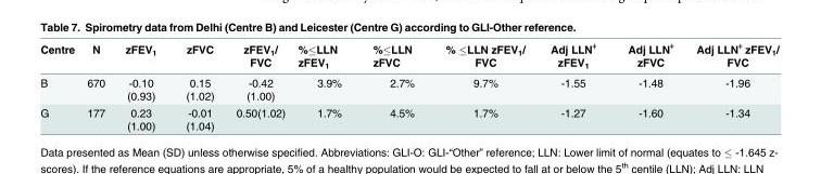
<table><thead><tr><td>Centre</td><td>N</td><td>zFEV<sub>1</sub></td><td>zFVC</td><td>zFEV<sub>1</sub>/ FVC</td><td>%≤LLN zFEV<sub>1</sub></td><td>%≤LLN zFVC</td><td>% ≤LLN zFEV<sub>1</sub>/ FVC</td><td>Adj LLN<sup>ǂ</sup> zFEV<sub>1</sub></td><td>Adj LLN<sup>ǂ</sup> zFVC</td><td>Adj LLN<sup>ǂ</sup> zFEV<sub>1</sub>/ FVC</td></tr></thead><tbody><tr><td>B</td><td>670</td><td>-0.10 (0.93)</td><td>0.15 (1.02)</td><td>-0.42 (1.00)</td><td>3.9%</td><td>2.7%</td><td>9.7%</td><td>-1.55</td><td>-1.48</td><td>-1.96</td></tr><tr><td>G</td><td>177</td><td>0.23 (1.00)</td><td>-0.01 (1.04)</td><td>0.50(1.02)</td><td>1.7%</td><td>4.5%</td><td>1.7%</td><td>-1.27</td><td>-1.60</td><td>-1.34</td></tr></tbody></table>